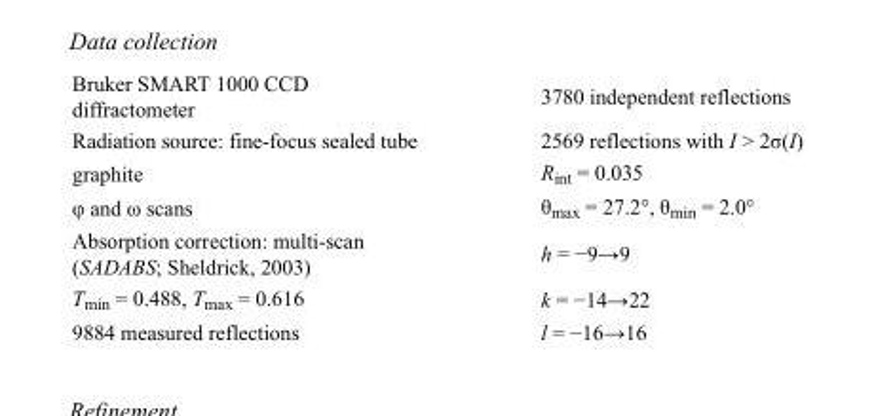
<table><tbody><tr><td>Bruker SMART 1000 CCD diffractometer</td><td>3780 independent reflections</td></tr><tr><td>Radiation source: fine-focus sealed tube</td><td>2569 reflections with I &gt; 2σ(I)</td></tr><tr><td>graphite</td><td>R<sub>int</sub> = 0.035</td></tr><tr><td>φ and ω scans</td><td>θ<sub>max</sub> = 27.2°, θ<sub>min</sub> = 2.0°</td></tr><tr><td>Absorption correction: multi-scan (SADABS; Sheldrick, 2003)</td><td>h = −9→9</td></tr><tr><td>T<sub>min</sub> = 0.488, T<sub>max</sub> = 0.616</td><td>k = −14→22</td></tr><tr><td>9884 measured reflections</td><td>l = −16→16</td></tr></tbody></table>